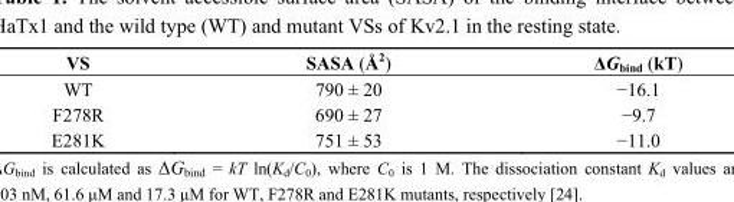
<table><thead><tr><td>VS</td><td>SASA (Å<sup>2</sup>)</td><td>ΔG<sub>bind</sub> (kT)</td></tr></thead><tbody><tr><td>WT</td><td>790 ± 20</td><td>−16.1</td></tr><tr><td>F278R</td><td>690 ± 27</td><td>−9.7</td></tr><tr><td>E281K</td><td>751 ± 53</td><td>−11.0</td></tr></tbody></table>